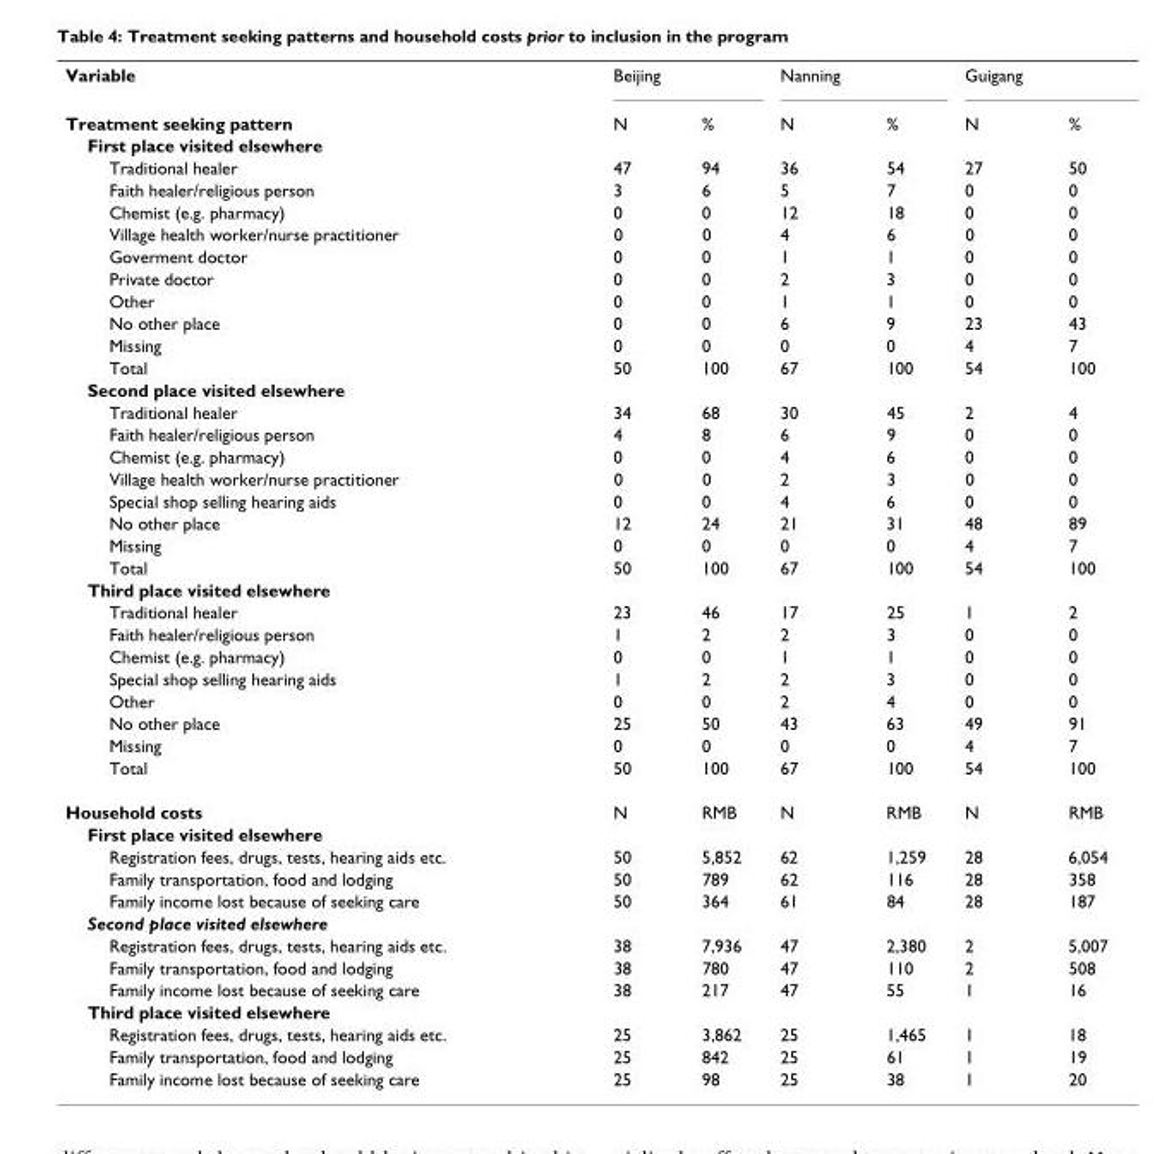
<table><tbody><tr><td>Variable</td><td>Beijing</td><td></td><td>Nanning</td><td></td><td>Guigang</td><td></td></tr><tr><td>Treatment seeking pattern</td><td>N</td><td>%</td><td>N</td><td>%</td><td>N</td><td>%</td></tr><tr><td colspan="7">First place visited elsewhere</td></tr><tr><td>Traditional healer</td><td>47</td><td>94</td><td>36</td><td>54</td><td>27</td><td>50</td></tr><tr><td>Faith healer/religious person</td><td>3</td><td>6</td><td>5</td><td>7</td><td>0</td><td>0</td></tr><tr><td>Chemist (e.g. pharmacy)</td><td>0</td><td>0</td><td>12</td><td>18</td><td>0</td><td>0</td></tr><tr><td>Village health worker/nurse practitioner</td><td>0</td><td>0</td><td>4</td><td>6</td><td>0</td><td>0</td></tr><tr><td>Goverment doctor</td><td>0</td><td>0</td><td>1</td><td>1</td><td>0</td><td>0</td></tr><tr><td>Private doctor</td><td>0</td><td>0</td><td>2</td><td>3</td><td>0</td><td>0</td></tr><tr><td>Other</td><td>0</td><td>0</td><td>1</td><td>1</td><td>0</td><td>0</td></tr><tr><td>No other place</td><td>0</td><td>0</td><td>6</td><td>9</td><td>23</td><td>43</td></tr><tr><td>Missing</td><td>0</td><td>0</td><td>0</td><td>0</td><td>4</td><td>7</td></tr><tr><td>Total</td><td>50</td><td>100</td><td>67</td><td>100</td><td>54</td><td>100</td></tr><tr><td colspan="7">Second place visited elsewhere</td></tr><tr><td>Traditional healer</td><td>34</td><td>68</td><td>30</td><td>45</td><td>2</td><td>4</td></tr><tr><td>Faith healer/religious person</td><td>4</td><td>8</td><td>6</td><td>9</td><td>0</td><td>0</td></tr><tr><td>Chemist (e.g. pharmacy)</td><td>0</td><td>0</td><td>4</td><td>6</td><td>0</td><td>0</td></tr><tr><td>Village health worker/nurse practitioner</td><td>0</td><td>0</td><td>2</td><td>3</td><td>0</td><td>0</td></tr><tr><td>Special shop selling hearing aids</td><td>0</td><td>0</td><td>4</td><td>6</td><td>0</td><td>0</td></tr><tr><td>No other place</td><td>12</td><td>24</td><td>21</td><td>31</td><td>48</td><td>89</td></tr><tr><td>Missing</td><td>0</td><td>0</td><td>0</td><td>0</td><td>4</td><td>7</td></tr><tr><td>Total</td><td>50</td><td>100</td><td>67</td><td>100</td><td>54</td><td>100</td></tr><tr><td colspan="7">Third place visited elsewhere</td></tr><tr><td>Traditional healer</td><td>23</td><td>46</td><td>17</td><td>25</td><td>1</td><td>2</td></tr><tr><td>Faith healer/religious person</td><td>1</td><td>2</td><td>2</td><td>3</td><td>0</td><td>0</td></tr><tr><td>Chemist (e.g. pharmacy)</td><td>0</td><td>0</td><td>1</td><td>1</td><td>0</td><td>0</td></tr><tr><td>Special shop selling hearing aids</td><td>1</td><td>2</td><td>2</td><td>3</td><td>0</td><td>0</td></tr><tr><td>Other</td><td>0</td><td>0</td><td>2</td><td>4</td><td>0</td><td>0</td></tr><tr><td>No other place</td><td>25</td><td>50</td><td>43</td><td>63</td><td>49</td><td>91</td></tr><tr><td>Missing</td><td>0</td><td>0</td><td>0</td><td>0</td><td>4</td><td>7</td></tr><tr><td>Total</td><td>50</td><td>100</td><td>67</td><td>100</td><td>54</td><td>100</td></tr><tr><td>Household costs</td><td>N</td><td>RMB</td><td>N</td><td>RMB</td><td>N</td><td>RMB</td></tr><tr><td colspan="7">First place visited elsewhere</td></tr><tr><td>Registration fees, drugs, tests, hearing aids etc.</td><td>50</td><td>5,852</td><td>62</td><td>1,259</td><td>28</td><td>6,054</td></tr><tr><td>Family transportation, food and lodging</td><td>50</td><td>789</td><td>62</td><td>116</td><td>28</td><td>358</td></tr><tr><td>Family income lost because of seeking care</td><td>50</td><td>364</td><td>61</td><td>84</td><td>28</td><td>187</td></tr><tr><td colspan="7">Second place visited elsewhere</td></tr><tr><td>Registration fees, drugs, tests, hearing aids etc.</td><td>38</td><td>7,936</td><td>47</td><td>2,380</td><td>2</td><td>5,007</td></tr><tr><td>Family transportation, food and lodging</td><td>38</td><td>780</td><td>47</td><td>110</td><td>2</td><td>508</td></tr><tr><td>Family income lost because of seeking care</td><td>38</td><td>217</td><td>47</td><td>55</td><td>1</td><td>16</td></tr><tr><td colspan="7">Third place visited elsewhere</td></tr><tr><td>Registration fees, drugs, tests, hearing aids etc.</td><td>25</td><td>3,862</td><td>25</td><td>1,465</td><td>1</td><td>18</td></tr><tr><td>Family transportation, food and lodging</td><td>25</td><td>842</td><td>25</td><td>61</td><td>1</td><td>19</td></tr><tr><td>Family income lost because of seeking care</td><td>25</td><td>98</td><td>25</td><td>38</td><td>1</td><td>20</td></tr></tbody></table>